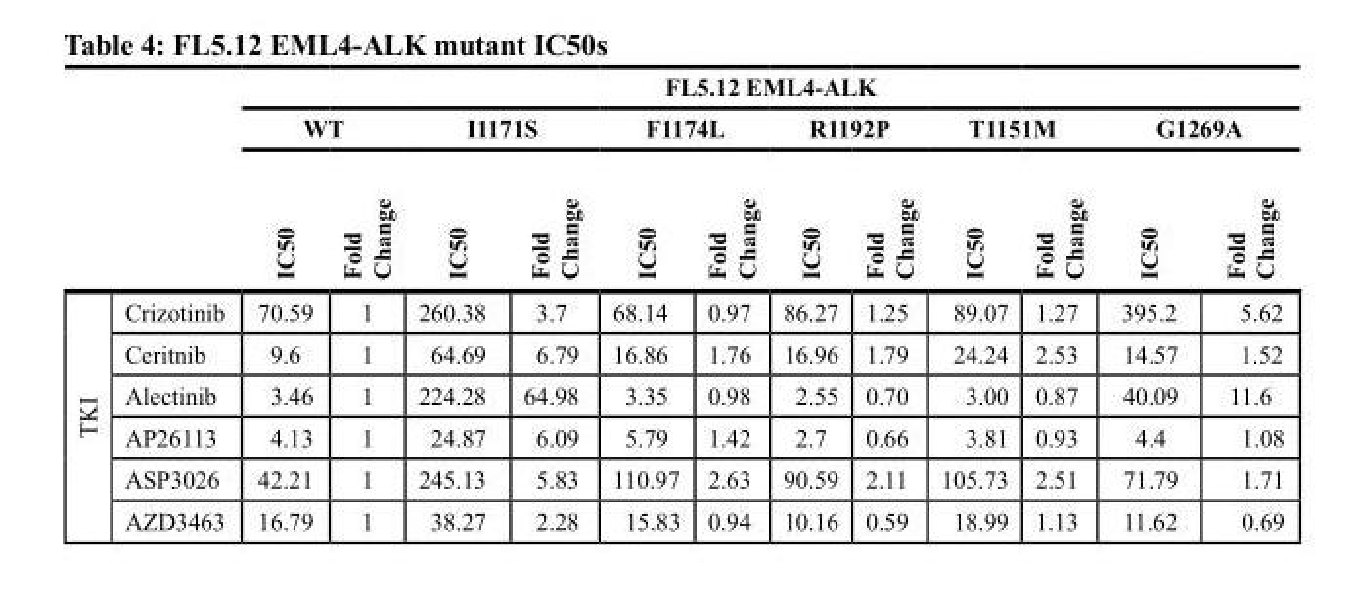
<table><thead><tr><td rowspan="3"></td><td rowspan="3"></td><td colspan="12">Fl5.12 eMl4-AlK</td></tr><tr><td colspan="2">Wt</td><td colspan="2">I1171s</td><td colspan="2">F1174l</td><td colspan="2">r1192P</td><td colspan="2">t1151M</td><td colspan="2">G1269A</td></tr><tr><td>Ic50</td><td>Fold change</td><td>Ic50</td><td>Fold change</td><td>Ic50</td><td>Fold change</td><td>Ic50</td><td>Fold change</td><td>Ic50</td><td>Fold change</td><td>Ic50</td><td>Fold change</td></tr></thead><tbody><tr><td rowspan="6">TKI</td><td>Crizotinib</td><td>70.59</td><td>1</td><td>260.38</td><td>3.7</td><td>68.14</td><td>0.97</td><td>86.27</td><td>1.25</td><td>89.07</td><td>1.27</td><td>395.2</td><td>5.62</td></tr><tr><td>Ceritnib</td><td>9.6</td><td>1</td><td>64.69</td><td>6.79</td><td>16.86</td><td>1.76</td><td>16.96</td><td>1.79</td><td>24.24</td><td>2.53</td><td>14.57</td><td>1.52</td></tr><tr><td>Alectinib</td><td>3.46</td><td>1</td><td>224.28</td><td>64.98</td><td>3.35</td><td>0.98</td><td>2.55</td><td>0.70</td><td>3.00</td><td>0.87</td><td>40.09</td><td>11.6</td></tr><tr><td>AP26113</td><td>4.13</td><td>1</td><td>24.87</td><td>6.09</td><td>5.79</td><td>1.42</td><td>2.7</td><td>0.66</td><td>3.81</td><td>0.93</td><td>4.4</td><td>1.08</td></tr><tr><td>ASP3026</td><td>42.21</td><td>1</td><td>245.13</td><td>5.83</td><td>110.97</td><td>2.63</td><td>90.59</td><td>2.11</td><td>105.73</td><td>2.51</td><td>71.79</td><td>1.71</td></tr><tr><td>AZD3463</td><td>16.79</td><td>1</td><td>38.27</td><td>2.28</td><td>15.83</td><td>0.94</td><td>10.16</td><td>0.59</td><td>18.99</td><td>1.13</td><td>11.62</td><td>0.69</td></tr></tbody></table>